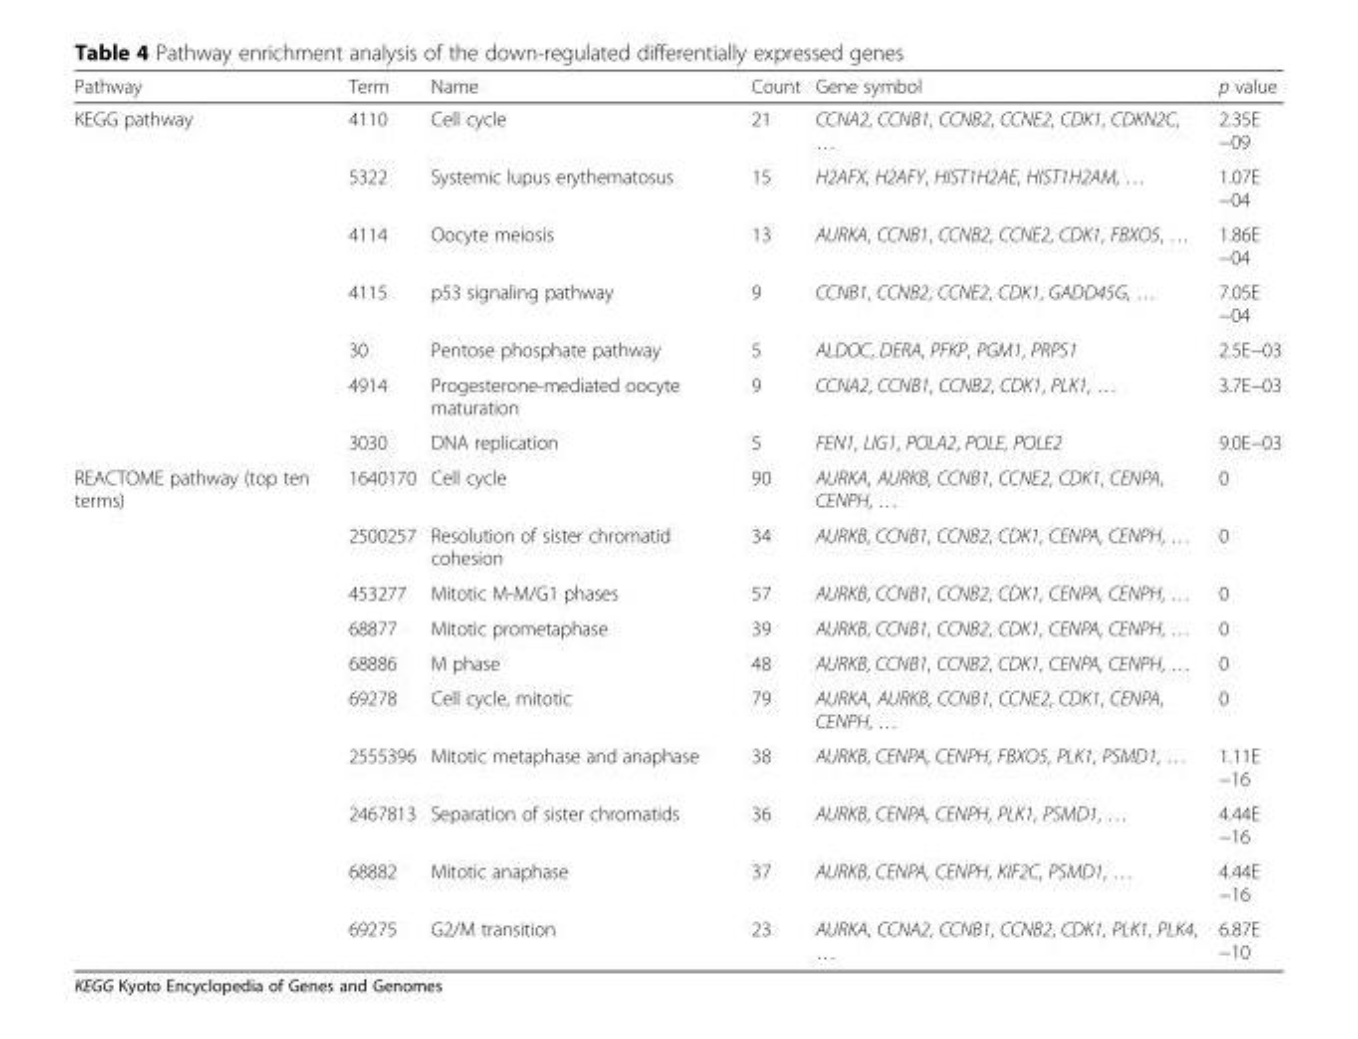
<table><thead><tr><td>Pathway</td><td>Term</td><td>Name</td><td>Count</td><td>Gene symbol</td><td>p value</td></tr></thead><tbody><tr><td rowspan="7">KEGG pathway</td><td>4110</td><td>Cell cycle</td><td>21</td><td>CCNA2, CCNB1, CCNB2, CCNE2, CDK1, CDKN2C, …</td><td>2.35E −09</td></tr><tr><td>5322</td><td>Systemic lupus erythematosus</td><td>15</td><td>H2AFX, H2AFY, HIST1H2AE, HIST1H2AM, …</td><td>1.07E −04</td></tr><tr><td>4114</td><td>Oocyte meiosis</td><td>13</td><td>AURKA, CCNB1, CCNB2, CCNE2, CDK1, FBXO5, …</td><td>1.86E −04</td></tr><tr><td>4115</td><td>p53 signaling pathway</td><td>9</td><td>CCNB1, CCNB2, CCNE2, CDK1, GADD45G, …</td><td>7.05E −04</td></tr><tr><td>30</td><td>Pentose phosphate pathway</td><td>5</td><td>ALDOC, DERA, PFKP, PGM1, PRPS1</td><td>2.5E−03</td></tr><tr><td>4914</td><td>Progesterone-mediated oocyte maturation</td><td>9</td><td>CCNA2, CCNB1, CCNB2, CDK1, PLK1, …</td><td>3.7E−03</td></tr><tr><td>3030</td><td>DNA replication</td><td>5</td><td>FEN1, LIG1, POLA2, POLE, POLE2</td><td>9.0E−03</td></tr><tr><td rowspan="10">REACTOME pathway (top ten terms)</td><td>1640170</td><td>Cell cycle</td><td>90</td><td>AURKA, AURKB, CCNB1, CCNE2, CDK1, CENPA, CENPH, …</td><td>0</td></tr><tr><td>2500257</td><td>Resolution of sister chromatid cohesion</td><td>34</td><td>AURKB, CCNB1, CCNB2, CDK1, CENPA, CENPH, …</td><td>0</td></tr><tr><td>453277</td><td>Mitotic M-M/G1 phases</td><td>57</td><td>AURKB, CCNB1, CCNB2, CDK1, CENPA, CENPH, …</td><td>0</td></tr><tr><td>68877</td><td>Mitotic prometaphase</td><td>39</td><td>AURKB, CCNB1, CCNB2, CDK1, CENPA, CENPH, …</td><td>0</td></tr><tr><td>68886</td><td>M phase</td><td>48</td><td>AURKB, CCNB1, CCNB2, CDK1, CENPA, CENPH, …</td><td>0</td></tr><tr><td>69278</td><td>Cell cycle, mitotic</td><td>79</td><td>AURKA, AURKB, CCNB1, CCNE2, CDK1, CENPA, CENPH, …</td><td>0</td></tr><tr><td>2555396</td><td>Mitotic metaphase and anaphase</td><td>38</td><td>AURKB, CENPA, CENPH, FBXO5, PLK1, PSMD1, …</td><td>1.11E −16</td></tr><tr><td>2467813</td><td>Separation of sister chromatids</td><td>36</td><td>AURKB, CENPA, CENPH, PLK1, PSMD1, …</td><td>4.44E −16</td></tr><tr><td>68882</td><td>Mitotic anaphase</td><td>37</td><td>AURKB, CENPA, CENPH, KIF2C, PSMD1, …</td><td>4.44E −16</td></tr><tr><td>69275</td><td>G2/M transition</td><td>23</td><td>AURKA, CCNA2, CCNB1, CCNB2, CDK1, PLK1, PLK4, …</td><td>6.87E −10</td></tr></tbody></table>